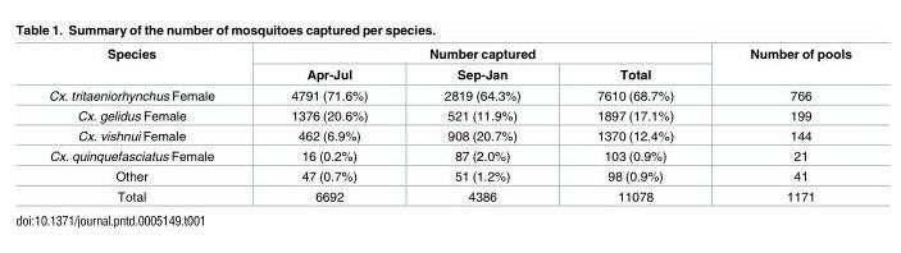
<table><thead><tr><td rowspan="2">Species</td><td colspan="3">Number captured</td><td rowspan="2">Number of pools</td></tr><tr><td>Apr-Jul</td><td>Sep-Jan</td><td>Total</td></tr></thead><tbody><tr><td>Cx. tritaeniorhynchus Female</td><td>4791 (71.6%)</td><td>2819 (64.3%)</td><td>7610 (68.7%)</td><td>766</td></tr><tr><td>Cx. gelidus Female</td><td>1376 (20.6%)</td><td>521 (11.9%)</td><td>1897 (17.1%)</td><td>199</td></tr><tr><td>Cx. vishnui Female</td><td>462 (6.9%)</td><td>908 (20.7%)</td><td>1370 (12.4%)</td><td>144</td></tr><tr><td>Cx. quinquefasciatus Female</td><td>16 (0.2%)</td><td>87 (2.0%)</td><td>103 (0.9%)</td><td>21</td></tr><tr><td>Other</td><td>47 (0.7%)</td><td>51 (1.2%)</td><td>98 (0.9%)</td><td>41</td></tr><tr><td>Total</td><td>6692</td><td>4386</td><td>11078</td><td>1171</td></tr></tbody></table>